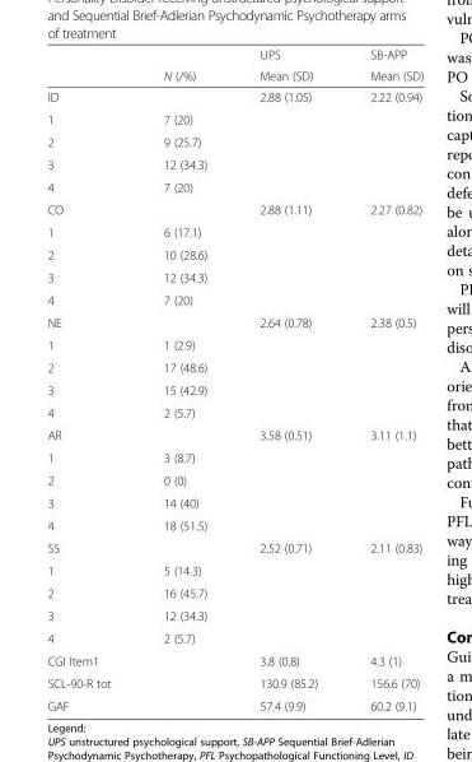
<table><thead><tr><td rowspan="2"></td><td rowspan="2">N (/%)</td><td rowspan="2">UPS Mean (SD)</td><td rowspan="2">SB-APP Mean (SD)</td></tr><tr></tr></thead><tbody><tr><td>ID</td><td></td><td>2.88 (1.05)</td><td>2.22 (0.94)</td></tr><tr><td>1</td><td>7 (20)</td><td></td><td></td></tr><tr><td>2</td><td>9 (25.7)</td><td></td><td></td></tr><tr><td>3</td><td>12 (34.3)</td><td></td><td></td></tr><tr><td>4</td><td>7 (20)</td><td></td><td></td></tr><tr><td>CO</td><td></td><td>2.88 (1.11)</td><td>2.27 (0.82)</td></tr><tr><td>1</td><td>6 (17.1)</td><td></td><td></td></tr><tr><td>2</td><td>10 (28.6)</td><td></td><td></td></tr><tr><td>3</td><td>12 (34.3)</td><td></td><td></td></tr><tr><td>4</td><td>7 (20)</td><td></td><td></td></tr><tr><td>NE</td><td></td><td>2.64 (0.78)</td><td>2.38 (0.5)</td></tr><tr><td>1</td><td>1 (2.9)</td><td></td><td></td></tr><tr><td>2</td><td>17 (48.6)</td><td></td><td></td></tr><tr><td>3</td><td>15 (42.9)</td><td></td><td></td></tr><tr><td>4</td><td>2 (5.7)</td><td></td><td></td></tr><tr><td>AR</td><td></td><td>3.58 (0.51)</td><td>3.11 (1.1)</td></tr><tr><td>1</td><td>3 (8.7)</td><td></td><td></td></tr><tr><td>2</td><td>0 (0)</td><td></td><td></td></tr><tr><td>3</td><td>14 (40)</td><td></td><td></td></tr><tr><td>4</td><td>18 (51.5)</td><td></td><td></td></tr><tr><td>SS</td><td></td><td>2.52 (0.71)</td><td>2.11 (0.83)</td></tr><tr><td>1</td><td>5 (14.3)</td><td></td><td></td></tr><tr><td>2</td><td>16 (45.7)</td><td></td><td></td></tr><tr><td>3</td><td>12 (34.3)</td><td></td><td></td></tr><tr><td>4</td><td>2 (5.7)</td><td></td><td></td></tr><tr><td>CGI Item1</td><td></td><td>3.8 (0.8)</td><td>4.3 (1)</td></tr><tr><td>SCL-90-R tot</td><td></td><td>130.9 (85.2)</td><td>156.6 (70)</td></tr><tr><td>GAF</td><td></td><td>57.4 (9.9)</td><td>60.2 (9.1)</td></tr></tbody></table>